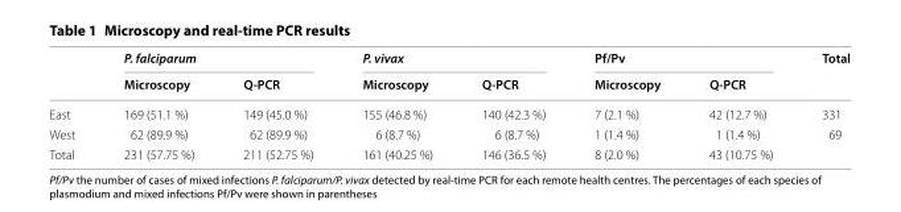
<table><thead><tr><td rowspan="2"></td><td colspan="2">P. falciparum</td><td colspan="2">P. vivax</td><td colspan="2">Pf/Pv</td><td rowspan="2">Total</td></tr><tr><td>Microscopy</td><td>Q‑PCR</td><td>Microscopy</td><td>Q‑PCR</td><td>Microscopy</td><td>Q‑PCR</td></tr></thead><tbody><tr><td>East</td><td>169 (51.1 %)</td><td>149 (45.0 %)</td><td>155 (46.8 %)</td><td>140 (42.3 %)</td><td>7 (2.1 %)</td><td>42 (12.7 %)</td><td>331</td></tr><tr><td>West</td><td>62 (89.9 %)</td><td>62 (89.9 %)</td><td>6 (8.7 %)</td><td>6 (8.7 %)</td><td>1 (1.4 %)</td><td>1 (1.4 %)</td><td>69</td></tr><tr><td>Total</td><td>231 (57.75 %)</td><td>211 (52.75 %)</td><td>161 (40.25 %)</td><td>146 (36.5 %)</td><td>8 (2.0 %)</td><td>43 (10.75 %)</td><td></td></tr></tbody></table>